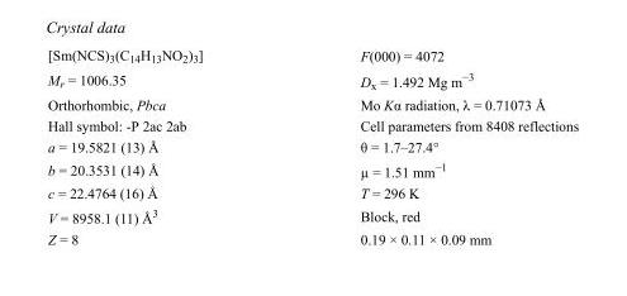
<table><tbody><tr><td>[Sm(NCS)<sub>3</sub>(C<sub>14</sub>H<sub>13</sub>NO<sub>2</sub>)<sub>3</sub>]</td><td>F(000) = 4072</td></tr><tr><td>M<sub>r</sub> = 1006.35</td><td>D<sub>x</sub> = 1.492 Mg m<sup>−3</sup></td></tr><tr><td>Orthorhombic, Pbca</td><td>Mo Kα radiation, λ = 0.71073 Å</td></tr><tr><td>Hall symbol: -P 2ac 2ab</td><td>Cell parameters from 8408 reflections</td></tr><tr><td>a = 19.5821 (13) Å</td><td>θ = 1.7–27.4°</td></tr><tr><td>b = 20.3531 (14) Å</td><td>µ = 1.51 mm<sup>−1</sup></td></tr><tr><td>c = 22.4764 (16) Å</td><td>T = 296 K</td></tr><tr><td>V = 8958.1 (11) Å<sup>3</sup></td><td>Block, red</td></tr><tr><td>Z = 8</td><td>0.19 × 0.11 × 0.09 mm</td></tr></tbody></table>